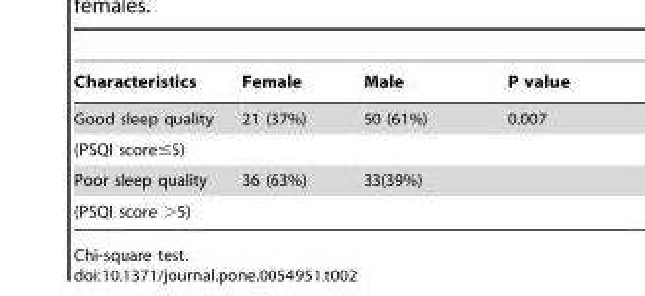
<table><thead><tr><td>Characteristics</td><td>Female</td><td>Male</td><td>P value</td></tr></thead><tbody><tr><td>Good sleep quality</td><td>21 (37%)</td><td>50 (61%)</td><td>0.007</td></tr><tr><td colspan="4">(PSQI score≤5)</td></tr><tr><td>Poor sleep quality</td><td>36 (63%)</td><td>33(39%)</td><td></td></tr><tr><td>(PSQI score &gt;5)</td><td></td><td></td><td></td></tr></tbody></table>